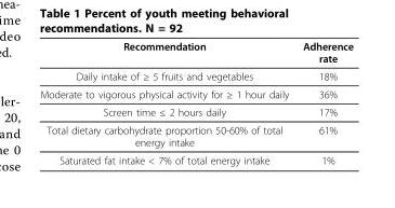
<table><thead><tr><td>Recommendation</td><td>Adherence rate</td></tr></thead><tbody><tr><td>Daily intake of ≥ 5 fruits and vegetables</td><td>18%</td></tr><tr><td>Moderate to vigorous physical activity for ≥ 1 hour daily</td><td>36%</td></tr><tr><td>Screen time ≤ 2 hours daily</td><td>17%</td></tr><tr><td>Total dietary carbohydrate proportion 50-60% of total energy intake</td><td>61%</td></tr><tr><td>Saturated fat intake &lt; 7% of total energy intake</td><td>1%</td></tr></tbody></table>